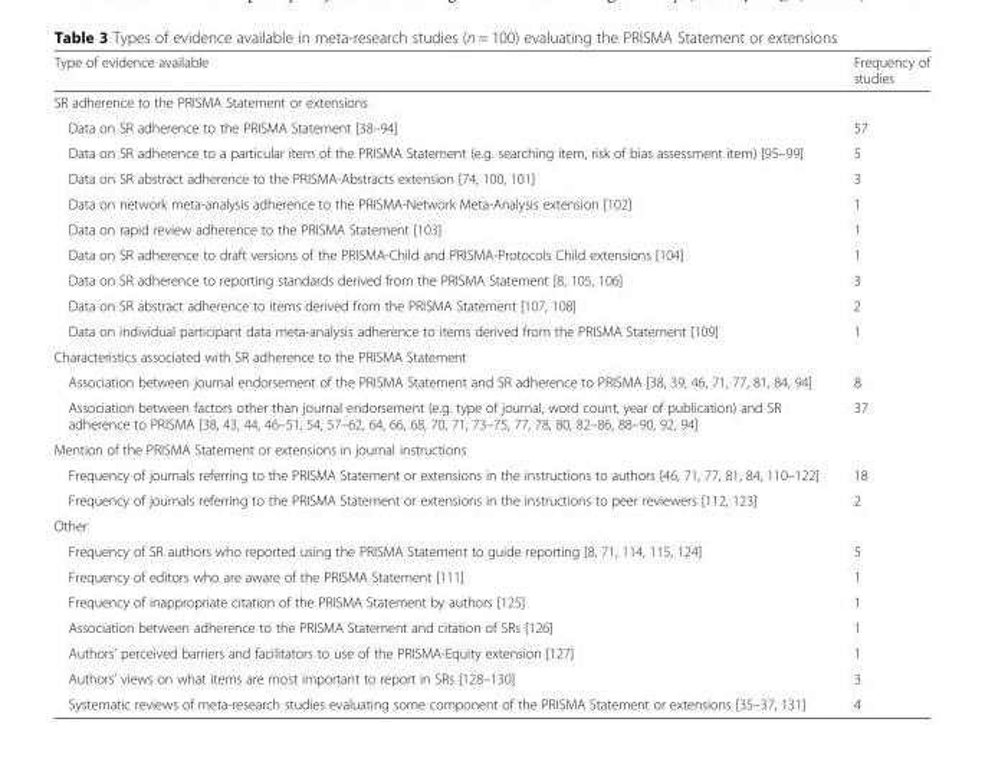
<table><thead><tr><td>Type of evidence available</td><td>Frequency of studies</td></tr></thead><tbody><tr><td colspan="2">SR adherence to the PRISMA Statement or extensions</td></tr><tr><td>Data on SR adherence to the PRISMA Statement [38–94]</td><td>57</td></tr><tr><td>Data on SR adherence to a particular item of the PRISMA Statement (e.g. searching item, risk of bias assessment item) [95–99]</td><td>5</td></tr><tr><td>Data on SR abstract adherence to the PRISMA-Abstracts extension [74, 100, 101]</td><td>3</td></tr><tr><td>Data on network meta-analysis adherence to the PRISMA-Network Meta-Analysis extension [102]</td><td>1</td></tr><tr><td>Data on rapid review adherence to the PRISMA Statement [103]</td><td>1</td></tr><tr><td>Data on SR adherence to draft versions of the PRISMA-Child and PRISMA-Protocols Child extensions [104]</td><td>1</td></tr><tr><td>Data on SR adherence to reporting standards derived from the PRISMA Statement [8, 105, 106]</td><td>3</td></tr><tr><td>Data on SR abstract adherence to items derived from the PRISMA Statement [107, 108]</td><td>2</td></tr><tr><td>Data on individual participant data meta-analysis adherence to items derived from the PRISMA Statement [109]</td><td>1</td></tr><tr><td colspan="2">Characteristics associated with SR adherence to the PRISMA Statement</td></tr><tr><td>Association between journal endorsement of the PRISMA Statement and SR adherence to PRISMA [38, 39, 46, 71, 77, 81, 84, 94]</td><td>8</td></tr><tr><td>Association between factors other than journal endorsement (e.g. type of journal, word count, year of publication) and SR adherence to PRISMA [38, 43, 44, 46–51, 54, 57–62, 64, 66, 68, 70, 71, 73–75, 77, 78, 80, 82–86, 88–90, 92, 94]</td><td>37</td></tr><tr><td colspan="2">Mention of the PRISMA Statement or extensions in journal instructions</td></tr><tr><td>Frequency of journals referring to the PRISMA Statement or extensions in the instructions to authors [46, 71, 77, 81, 84, 110–122]</td><td>18</td></tr><tr><td>Frequency of journals referring to the PRISMA Statement or extensions in the instructions to peer reviewers [112, 123]</td><td>2</td></tr><tr><td colspan="2">Other</td></tr><tr><td>Frequency of SR authors who reported using the PRISMA Statement to guide reporting [8, 71, 114, 115, 124]</td><td>5</td></tr><tr><td>Frequency of editors who are aware of the PRISMA Statement [111]</td><td>1</td></tr><tr><td>Frequency of inappropriate citation of the PRISMA Statement by authors [125]</td><td>1</td></tr><tr><td>Association between adherence to the PRISMA Statement and citation of SRs [126]</td><td>1</td></tr><tr><td>Authors’ perceived barriers and facilitators to use of the PRISMA-Equity extension [127]</td><td>1</td></tr><tr><td>Authors’ views on what items are most important to report in SRs [128–130]</td><td>3</td></tr><tr><td>Systematic reviews of meta-research studies evaluating some component of the PRISMA Statement or extensions [35–37, 131]</td><td>4</td></tr></tbody></table>